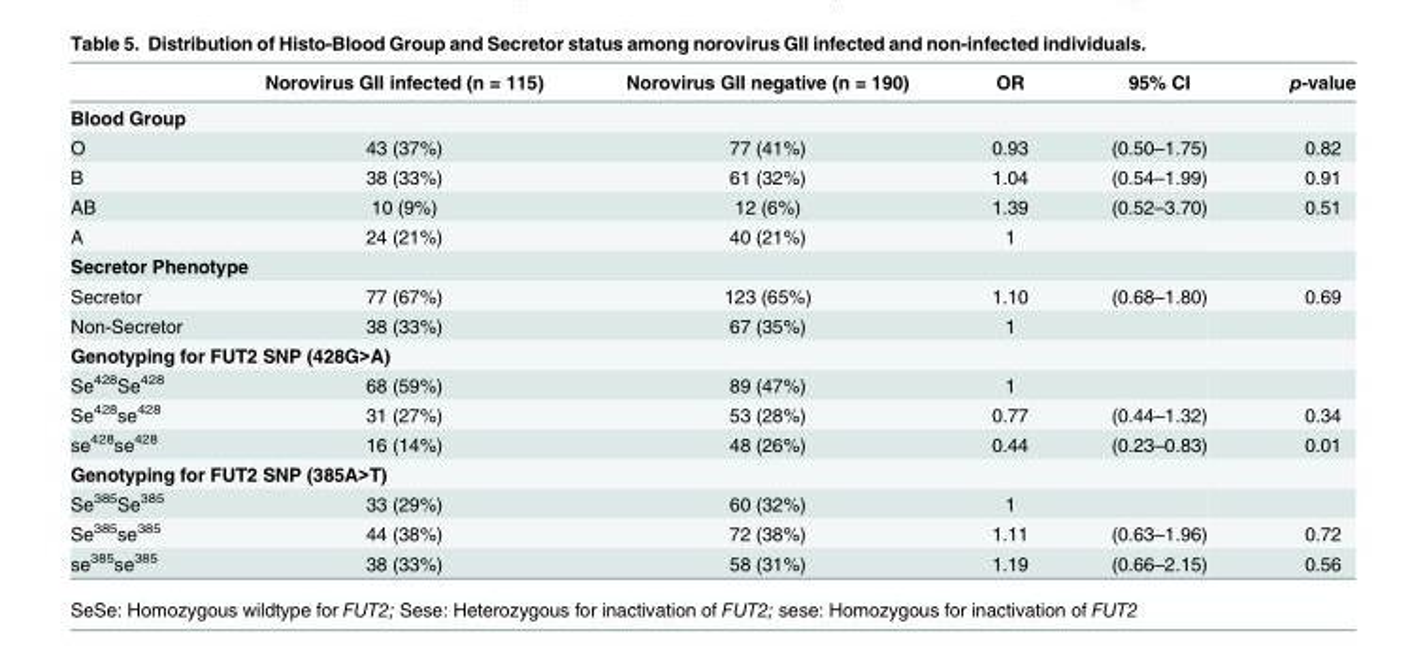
<table><thead><tr><td></td><td>Norovirus GII infected (n = 115)</td><td>Norovirus GII negative (n = 190)</td><td>OR</td><td>95% CI</td><td>p-value</td></tr></thead><tbody><tr><td colspan="6">Blood Group</td></tr><tr><td>O</td><td>43 (37%)</td><td>77 (41%)</td><td>0.93</td><td>(0.50–1.75)</td><td>0.82</td></tr><tr><td>B</td><td>38 (33%)</td><td>61 (32%)</td><td>1.04</td><td>(0.54–1.99)</td><td>0.91</td></tr><tr><td>AB</td><td>10 (9%)</td><td>12 (6%)</td><td>1.39</td><td>(0.52–3.70)</td><td>0.51</td></tr><tr><td>A</td><td>24 (21%)</td><td>40 (21%)</td><td>1</td><td></td><td></td></tr><tr><td colspan="6">Secretor Phenotype</td></tr><tr><td>Secretor</td><td>77 (67%)</td><td>123 (65%)</td><td>1.10</td><td>(0.68–1.80)</td><td>0.69</td></tr><tr><td>Non-Secretor</td><td>38 (33%)</td><td>67 (35%)</td><td>1</td><td></td><td></td></tr><tr><td colspan="6">Genotyping for FUT2 SNP (428G&gt;A)</td></tr><tr><td>Se<sup>428</sup>Se<sup>428</sup></td><td>68 (59%)</td><td>89 (47%)</td><td>1</td><td></td><td></td></tr><tr><td>Se<sup>428</sup>se<sup>428</sup></td><td>31 (27%)</td><td>53 (28%)</td><td>0.77</td><td>(0.44–1.32)</td><td>0.34</td></tr><tr><td>se<sup>428</sup>se<sup>428</sup></td><td>16 (14%)</td><td>48 (26%)</td><td>0.44</td><td>(0.23–0.83)</td><td>0.01</td></tr><tr><td colspan="6">Genotyping for FUT2 SNP (385A&gt;T)</td></tr><tr><td>Se<sup>385</sup>Se<sup>385</sup></td><td>33 (29%)</td><td>60 (32%)</td><td>1</td><td></td><td></td></tr><tr><td>Se<sup>385</sup>se<sup>385</sup></td><td>44 (38%)</td><td>72 (38%)</td><td>1.11</td><td>(0.63–1.96)</td><td>0.72</td></tr><tr><td>se<sup>385</sup>se<sup>385</sup></td><td>38 (33%)</td><td>58 (31%)</td><td>1.19</td><td>(0.66–2.15)</td><td>0.56</td></tr></tbody></table>